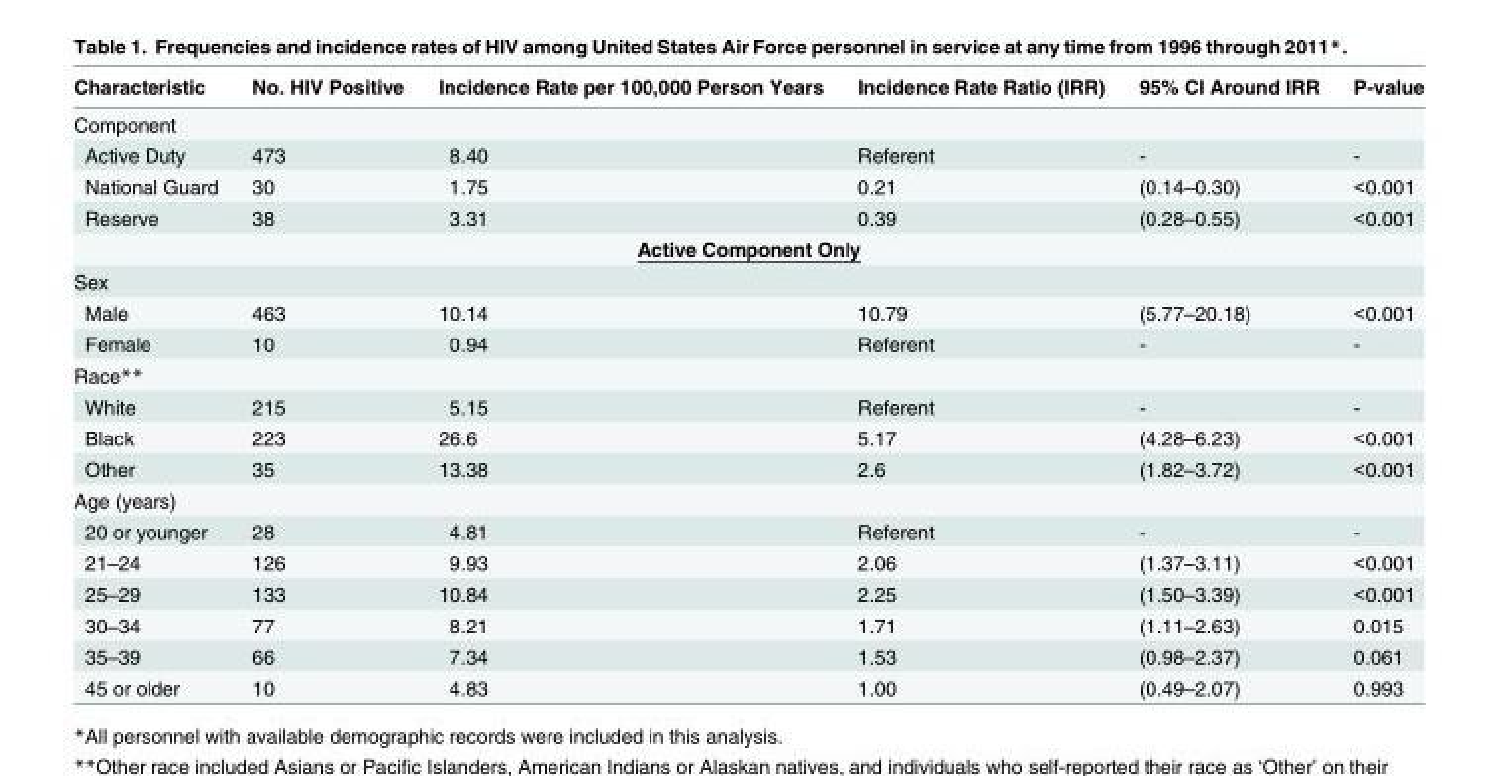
<table><thead><tr><td>Characteristic</td><td>No. HIV Positive</td><td>Incidence Rate per 100,000 Person Years</td><td>Incidence Rate Ratio (IRR)</td><td>95% CI Around IRR</td><td>P-value</td></tr></thead><tbody><tr><td colspan="6">Component</td></tr><tr><td>Active Duty</td><td>473</td><td>8.40</td><td>Referent</td><td>-</td><td>-</td></tr><tr><td>National Guard</td><td>30</td><td>1.75</td><td>0.21</td><td>(0.14–0.30)</td><td>&lt;0.001</td></tr><tr><td>Reserve</td><td>38</td><td>3.31</td><td>0.39</td><td>(0.28–0.55)</td><td>&lt;0.001</td></tr><tr><td colspan="6">Active Component Only</td></tr><tr><td colspan="6">Sex</td></tr><tr><td>Male</td><td>463</td><td>10.14</td><td>10.79</td><td>(5.77–20.18)</td><td>&lt;0.001</td></tr><tr><td>Female</td><td>10</td><td>0.94</td><td>Referent</td><td>-</td><td>-</td></tr><tr><td colspan="6">Race**</td></tr><tr><td>White</td><td>215</td><td>5.15</td><td>Referent</td><td>-</td><td>-</td></tr><tr><td>Black</td><td>223</td><td>26.6</td><td>5.17</td><td>(4.28–6.23)</td><td>&lt;0.001</td></tr><tr><td>Other</td><td>35</td><td>13.38</td><td>2.6</td><td>(1.82–3.72)</td><td>&lt;0.001</td></tr><tr><td colspan="6">Age (years)</td></tr><tr><td>20 or younger</td><td>28</td><td>4.81</td><td>Referent</td><td>-</td><td>-</td></tr><tr><td>21–24</td><td>126</td><td>9.93</td><td>2.06</td><td>(1.37–3.11)</td><td>&lt;0.001</td></tr><tr><td>25–29</td><td>133</td><td>10.84</td><td>2.25</td><td>(1.50–3.39)</td><td>&lt;0.001</td></tr><tr><td>30–34</td><td>77</td><td>8.21</td><td>1.71</td><td>(1.11–2.63)</td><td>0.015</td></tr><tr><td>35–39</td><td>66</td><td>7.34</td><td>1.53</td><td>(0.98–2.37)</td><td>0.061</td></tr><tr><td>45 or older</td><td>10</td><td>4.83</td><td>1.00</td><td>(0.49–2.07)</td><td>0.993</td></tr></tbody></table>